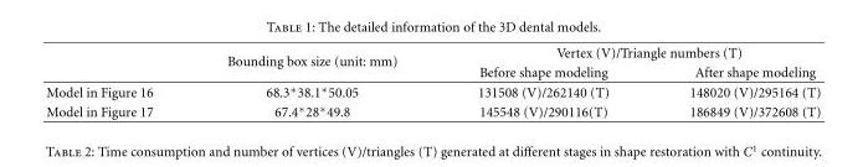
<table><thead><tr><td rowspan="2"></td><td rowspan="2">Bounding box size (unit: mm)</td><td colspan="2">Vertex (V)/Triangle numbers (T)</td></tr><tr><td>Before shape modeling</td><td>After shape modeling</td></tr></thead><tbody><tr><td>Model in Figure 16</td><td>68.3∗38.1∗50.05</td><td>131508 (V)/262140 (T)</td><td>148020 (V)/295164 (T)</td></tr><tr><td>Model in Figure 17</td><td>67.4∗28∗49.8</td><td>145548 (V)/290116(T)</td><td>186849 (V)/372608 (T)</td></tr></tbody></table>